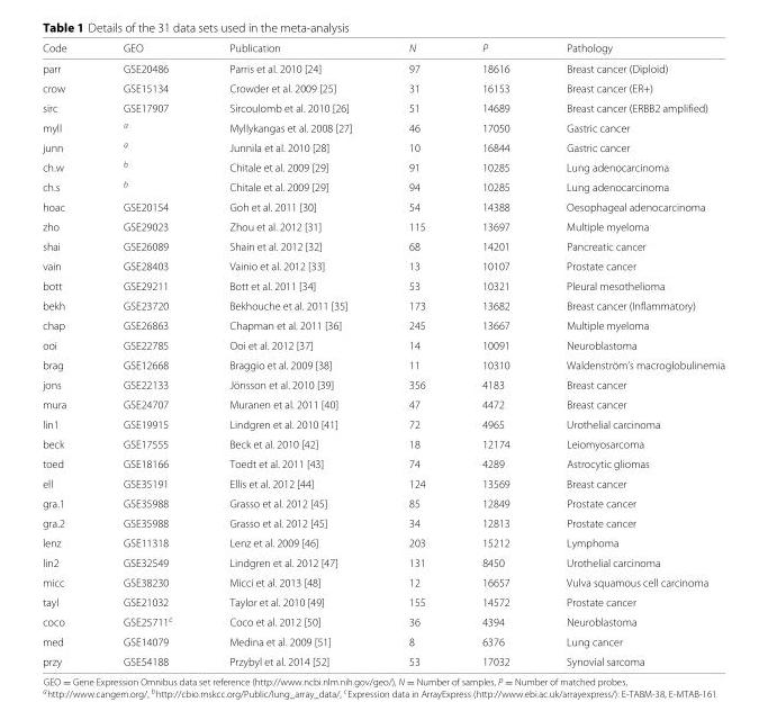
<table><thead><tr><td>Code</td><td>GEO</td><td>Publication</td><td>N</td><td>P</td><td>Pathology</td></tr></thead><tbody><tr><td>parr</td><td>GSE20486</td><td>Parris et al. 2010 [24]</td><td>97</td><td>18616</td><td>Breast cancer (Diploid)</td></tr><tr><td>crow</td><td>GSE15134</td><td>Crowder et al. 2009 [25]</td><td>31</td><td>16153</td><td>Breast cancer (ER+)</td></tr><tr><td>sirc</td><td>GSE17907</td><td>Sircoulomb et al. 2010 [26]</td><td>51</td><td>14689</td><td>Breast cancer (ERBB2 amplified)</td></tr><tr><td>myll</td><td><sup>a</sup></td><td>Myllykangas et al. 2008 [27]</td><td>46</td><td>17050</td><td>Gastric cancer</td></tr><tr><td>junn</td><td><sup>a</sup></td><td>Junnila et al. 2010 [28]</td><td>10</td><td>16844</td><td>Gastric cancer</td></tr><tr><td>ch.w</td><td><sup>b</sup></td><td>Chitale et al. 2009 [29]</td><td>91</td><td>10285</td><td>Lung adenocarcinoma</td></tr><tr><td>ch.s</td><td><sup>b</sup></td><td>Chitale et al. 2009 [29]</td><td>94</td><td>10285</td><td>Lung adenocarcinoma</td></tr><tr><td>hoac</td><td>GSE20154</td><td>Goh et al. 2011 [30]</td><td>54</td><td>14388</td><td>Oesophageal adenocarcinoma</td></tr><tr><td>zho</td><td>GSE29023</td><td>Zhou et al. 2012 [31]</td><td>115</td><td>13697</td><td>Multiple myeloma</td></tr><tr><td>shai</td><td>GSE26089</td><td>Shain et al. 2012 [32]</td><td>68</td><td>14201</td><td>Pancreatic cancer</td></tr><tr><td>vain</td><td>GSE28403</td><td>Vainio et al. 2012 [33]</td><td>13</td><td>10107</td><td>Prostate cancer</td></tr><tr><td>bott</td><td>GSE29211</td><td>Bott et al. 2011 [34]</td><td>53</td><td>10321</td><td>Pleural mesothelioma</td></tr><tr><td>bekh</td><td>GSE23720</td><td>Bekhouche et al. 2011 [35]</td><td>173</td><td>13682</td><td>Breast cancer (Inflammatory)</td></tr><tr><td>chap</td><td>GSE26863</td><td>Chapman et al. 2011 [36]</td><td>245</td><td>13667</td><td>Multiple myeloma</td></tr><tr><td>ooi</td><td>GSE22785</td><td>Ooi et al. 2012 [37]</td><td>14</td><td>10091</td><td>Neuroblastoma</td></tr><tr><td>brag</td><td>GSE12668</td><td>Braggio et al. 2009 [38]</td><td>11</td><td>10310</td><td>Waldenström’s macroglobulinemia</td></tr><tr><td>jons</td><td>GSE22133</td><td>Jönsson et al. 2010 [39]</td><td>356</td><td>4183</td><td>Breast cancer</td></tr><tr><td>mura</td><td>GSE24707</td><td>Muranen et al. 2011 [40]</td><td>47</td><td>4472</td><td>Breast cancer</td></tr><tr><td>lin1</td><td>GSE19915</td><td>Lindgren et al. 2010 [41]</td><td>72</td><td>4965</td><td>Urothelial carcinoma</td></tr><tr><td>beck</td><td>GSE17555</td><td>Beck et al. 2010 [42]</td><td>18</td><td>12174</td><td>Leiomyosarcoma</td></tr><tr><td>toed</td><td>GSE18166</td><td>Toedt et al. 2011 [43]</td><td>74</td><td>4289</td><td>Astrocytic gliomas</td></tr><tr><td>ell</td><td>GSE35191</td><td>Ellis et al. 2012 [44]</td><td>124</td><td>13569</td><td>Breast cancer</td></tr><tr><td>gra.1</td><td>GSE35988</td><td>Grasso et al. 2012 [45]</td><td>85</td><td>12849</td><td>Prostate cancer</td></tr><tr><td>gra.2</td><td>GSE35988</td><td>Grasso et al. 2012 [45]</td><td>34</td><td>12813</td><td>Prostate cancer</td></tr><tr><td>lenz</td><td>GSE11318</td><td>Lenz et al. 2009 [46]</td><td>203</td><td>15212</td><td>Lymphoma</td></tr><tr><td>lin2</td><td>GSE32549</td><td>Lindgren et al. 2012 [47]</td><td>131</td><td>8450</td><td>Urothelial carcinoma</td></tr><tr><td>micc</td><td>GSE38230</td><td>Micci et al. 2013 [48]</td><td>12</td><td>16657</td><td>Vulva squamous cell carcinoma</td></tr><tr><td>tayl</td><td>GSE21032</td><td>Taylor et al. 2010 [49]</td><td>155</td><td>14572</td><td>Prostate cancer</td></tr><tr><td>coco</td><td>GSE25711<sup>c</sup></td><td>Coco et al. 2012 [50]</td><td>36</td><td>4394</td><td>Neuroblastoma</td></tr><tr><td>med</td><td>GSE14079</td><td>Medina et al. 2009 [51]</td><td>8</td><td>6376</td><td>Lung cancer</td></tr><tr><td>przy</td><td>GSE54188</td><td>Przybyl et al. 2014 [52]</td><td>53</td><td>17032</td><td>Synovial sarcoma</td></tr></tbody></table>